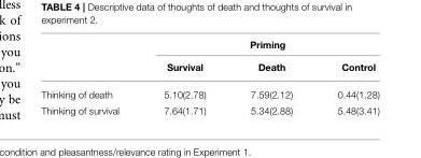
<table><thead><tr><td rowspan="2"></td><td colspan="3">Priming</td></tr><tr><td>Survival</td><td>Death</td><td>Control</td></tr></thead><tbody><tr><td>Thinking of death</td><td>5.10(2.78)</td><td>7.59(2.12)</td><td>0.44(1.28)</td></tr><tr><td>Thinking of survival</td><td>7.64(1.71)</td><td>5.34(2.88)</td><td>5.48(3.41)</td></tr></tbody></table>